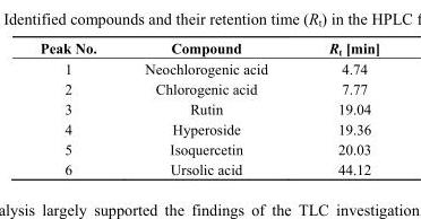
<table><thead><tr><td>Peak No.</td><td>Compound</td><td>R<sub>t</sub> [min]</td></tr></thead><tbody><tr><td>1</td><td>Neochlorogenic acid</td><td>4.74</td></tr><tr><td>2</td><td>Chlorogenic acid</td><td>7.77</td></tr><tr><td>3</td><td>Rutin</td><td>19.04</td></tr><tr><td>4</td><td>Hyperoside</td><td>19.36</td></tr><tr><td>5</td><td>Isoquercetin</td><td>20.03</td></tr><tr><td>6</td><td>Ursolic acid</td><td>44.12</td></tr></tbody></table>